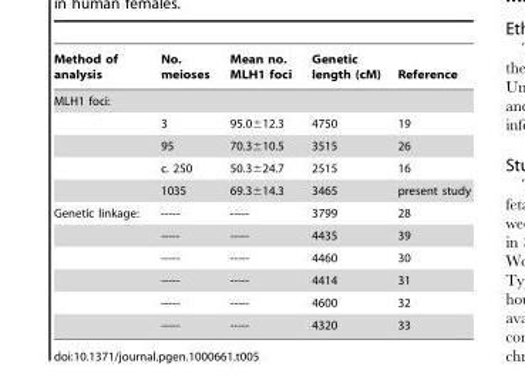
<table><thead><tr><td>Method of analysis</td><td>No. meioses</td><td>Mean no. MLH1 foci</td><td>Genetic length (cM)</td><td>Reference</td></tr></thead><tbody><tr><td colspan="5">MLH1 foci:</td></tr><tr><td></td><td>3</td><td>95.0±12.3</td><td>4750</td><td>19</td></tr><tr><td></td><td>95</td><td>70.3±10.5</td><td>3515</td><td>26</td></tr><tr><td></td><td>c. 250</td><td>50.3±24.7</td><td>2515</td><td>16</td></tr><tr><td></td><td>1035</td><td>69.3±14.3</td><td>3465</td><td>present study</td></tr><tr><td rowspan="6">Genetic linkage:</td><td>-----</td><td>-----</td><td>3799</td><td>28</td></tr><tr><td>-----</td><td>-----</td><td>4435</td><td>39</td></tr><tr><td>-----</td><td>-----</td><td>4460</td><td>30</td></tr><tr><td>-----</td><td>-----</td><td>4414</td><td>31</td></tr><tr><td>-----</td><td>-----</td><td>4600</td><td>32</td></tr><tr><td>-----</td><td>-----</td><td>4320</td><td>33</td></tr></tbody></table>